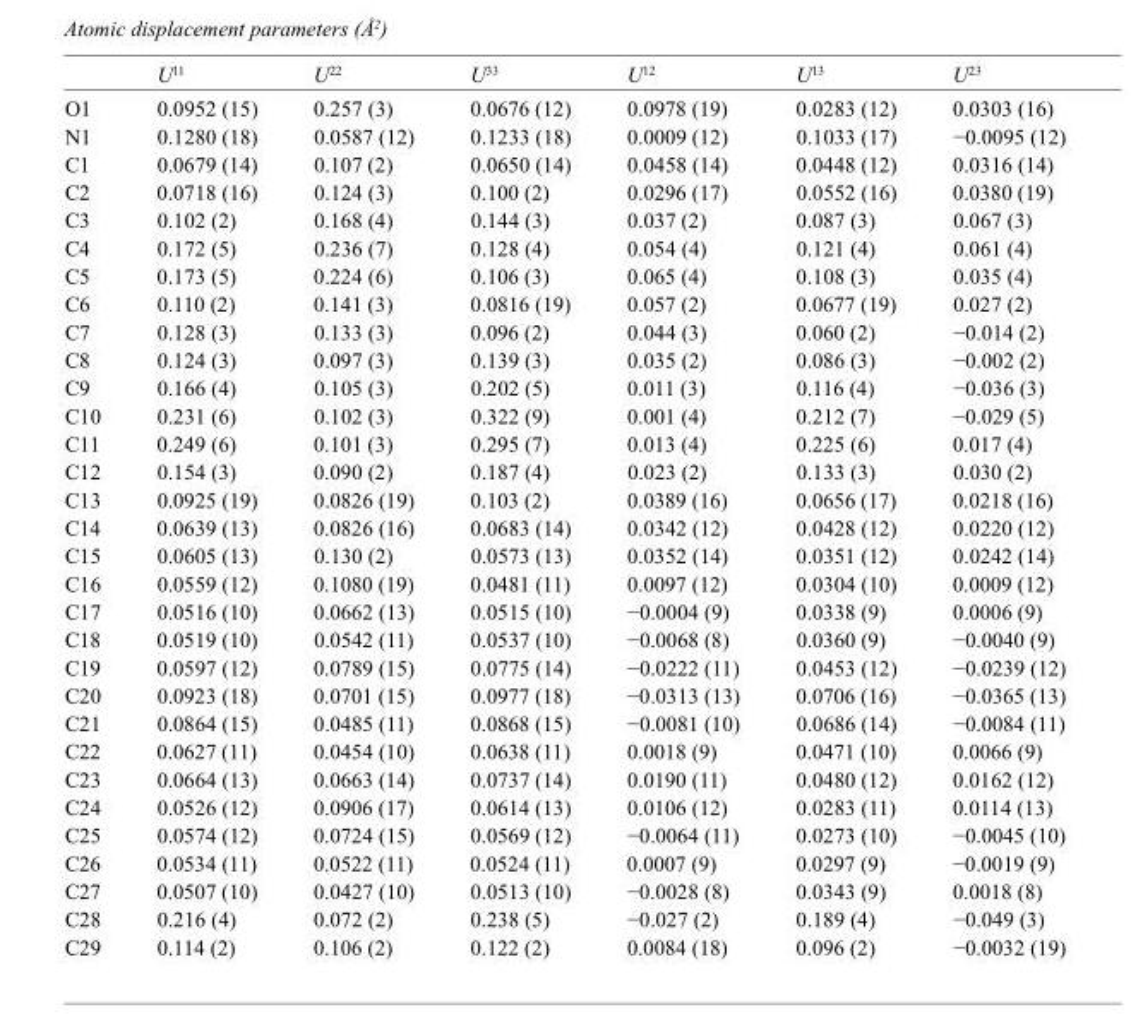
<table><thead><tr><td></td><td>U<sup>11</sup></td><td>U<sup>22</sup></td><td>U<sup>33</sup></td><td>U<sup>12</sup></td><td>U<sup>13</sup></td><td>U<sup>23</sup></td></tr></thead><tbody><tr><td>O1</td><td>0.0952 (15)</td><td>0.257 (3)</td><td>0.0676 (12)</td><td>0.0978 (19)</td><td>0.0283 (12)</td><td>0.0303 (16)</td></tr><tr><td>N1</td><td>0.1280 (18)</td><td>0.0587 (12)</td><td>0.1233 (18)</td><td>0.0009 (12)</td><td>0.1033 (17)</td><td>−0.0095 (12)</td></tr><tr><td>C1</td><td>0.0679 (14)</td><td>0.107 (2)</td><td>0.0650 (14)</td><td>0.0458 (14)</td><td>0.0448 (12)</td><td>0.0316 (14)</td></tr><tr><td>C2</td><td>0.0718 (16)</td><td>0.124 (3)</td><td>0.100 (2)</td><td>0.0296 (17)</td><td>0.0552 (16)</td><td>0.0380 (19)</td></tr><tr><td>C3</td><td>0.102 (2)</td><td>0.168 (4)</td><td>0.144 (3)</td><td>0.037 (2)</td><td>0.087 (3)</td><td>0.067 (3)</td></tr><tr><td>C4</td><td>0.172 (5)</td><td>0.236 (7)</td><td>0.128 (4)</td><td>0.054 (4)</td><td>0.121 (4)</td><td>0.061 (4)</td></tr><tr><td>C5</td><td>0.173 (5)</td><td>0.224 (6)</td><td>0.106 (3)</td><td>0.065 (4)</td><td>0.108 (3)</td><td>0.035 (4)</td></tr><tr><td>C6</td><td>0.110 (2)</td><td>0.141 (3)</td><td>0.0816 (19)</td><td>0.057 (2)</td><td>0.0677 (19)</td><td>0.027 (2)</td></tr><tr><td>C7</td><td>0.128 (3)</td><td>0.133 (3)</td><td>0.096 (2)</td><td>0.044 (3)</td><td>0.060 (2)</td><td>−0.014 (2)</td></tr><tr><td>C8</td><td>0.124 (3)</td><td>0.097 (3)</td><td>0.139 (3)</td><td>0.035 (2)</td><td>0.086 (3)</td><td>−0.002 (2)</td></tr><tr><td>C9</td><td>0.166 (4)</td><td>0.105 (3)</td><td>0.202 (5)</td><td>0.011 (3)</td><td>0.116 (4)</td><td>−0.036 (3)</td></tr><tr><td>C10</td><td>0.231 (6)</td><td>0.102 (3)</td><td>0.322 (9)</td><td>0.001 (4)</td><td>0.212 (7)</td><td>−0.029 (5)</td></tr><tr><td>C11</td><td>0.249 (6)</td><td>0.101 (3)</td><td>0.295 (7)</td><td>0.013 (4)</td><td>0.225 (6)</td><td>0.017 (4)</td></tr><tr><td>C12</td><td>0.154 (3)</td><td>0.090 (2)</td><td>0.187 (4)</td><td>0.023 (2)</td><td>0.133 (3)</td><td>0.030 (2)</td></tr><tr><td>C13</td><td>0.0925 (19)</td><td>0.0826 (19)</td><td>0.103 (2)</td><td>0.0389 (16)</td><td>0.0656 (17)</td><td>0.0218 (16)</td></tr><tr><td>C14</td><td>0.0639 (13)</td><td>0.0826 (16)</td><td>0.0683 (14)</td><td>0.0342 (12)</td><td>0.0428 (12)</td><td>0.0220 (12)</td></tr><tr><td>C15</td><td>0.0605 (13)</td><td>0.130 (2)</td><td>0.0573 (13)</td><td>0.0352 (14)</td><td>0.0351 (12)</td><td>0.0242 (14)</td></tr><tr><td>C16</td><td>0.0559 (12)</td><td>0.1080 (19)</td><td>0.0481 (11)</td><td>0.0097 (12)</td><td>0.0304 (10)</td><td>0.0009 (12)</td></tr><tr><td>C17</td><td>0.0516 (10)</td><td>0.0662 (13)</td><td>0.0515 (10)</td><td>−0.0004 (9)</td><td>0.0338 (9)</td><td>0.0006 (9)</td></tr><tr><td>C18</td><td>0.0519 (10)</td><td>0.0542 (11)</td><td>0.0537 (10)</td><td>−0.0068 (8)</td><td>0.0360 (9)</td><td>−0.0040 (9)</td></tr><tr><td>C19</td><td>0.0597 (12)</td><td>0.0789 (15)</td><td>0.0775 (14)</td><td>−0.0222 (11)</td><td>0.0453 (12)</td><td>−0.0239 (12)</td></tr><tr><td>C20</td><td>0.0923 (18)</td><td>0.0701 (15)</td><td>0.0977 (18)</td><td>−0.0313 (13)</td><td>0.0706 (16)</td><td>−0.0365 (13)</td></tr><tr><td>C21</td><td>0.0864 (15)</td><td>0.0485 (11)</td><td>0.0868 (15)</td><td>−0.0081 (10)</td><td>0.0686 (14)</td><td>−0.0084 (11)</td></tr><tr><td>C22</td><td>0.0627 (11)</td><td>0.0454 (10)</td><td>0.0638 (11)</td><td>0.0018 (9)</td><td>0.0471 (10)</td><td>0.0066 (9)</td></tr><tr><td>C23</td><td>0.0664 (13)</td><td>0.0663 (14)</td><td>0.0737 (14)</td><td>0.0190 (11)</td><td>0.0480 (12)</td><td>0.0162 (12)</td></tr><tr><td>C24</td><td>0.0526 (12)</td><td>0.0906 (17)</td><td>0.0614 (13)</td><td>0.0106 (12)</td><td>0.0283 (11)</td><td>0.0114 (13)</td></tr><tr><td>C25</td><td>0.0574 (12)</td><td>0.0724 (15)</td><td>0.0569 (12)</td><td>−0.0064 (11)</td><td>0.0273 (10)</td><td>−0.0045 (10)</td></tr><tr><td>C26</td><td>0.0534 (11)</td><td>0.0522 (11)</td><td>0.0524 (11)</td><td>0.0007 (9)</td><td>0.0297 (9)</td><td>−0.0019 (9)</td></tr><tr><td>C27</td><td>0.0507 (10)</td><td>0.0427 (10)</td><td>0.0513 (10)</td><td>−0.0028 (8)</td><td>0.0343 (9)</td><td>0.0018 (8)</td></tr><tr><td>C28</td><td>0.216 (4)</td><td>0.072 (2)</td><td>0.238 (5)</td><td>−0.027 (2)</td><td>0.189 (4)</td><td>−0.049 (3)</td></tr><tr><td>C29</td><td>0.114 (2)</td><td>0.106 (2)</td><td>0.122 (2)</td><td>0.0084 (18)</td><td>0.096 (2)</td><td>−0.0032 (19)</td></tr></tbody></table>